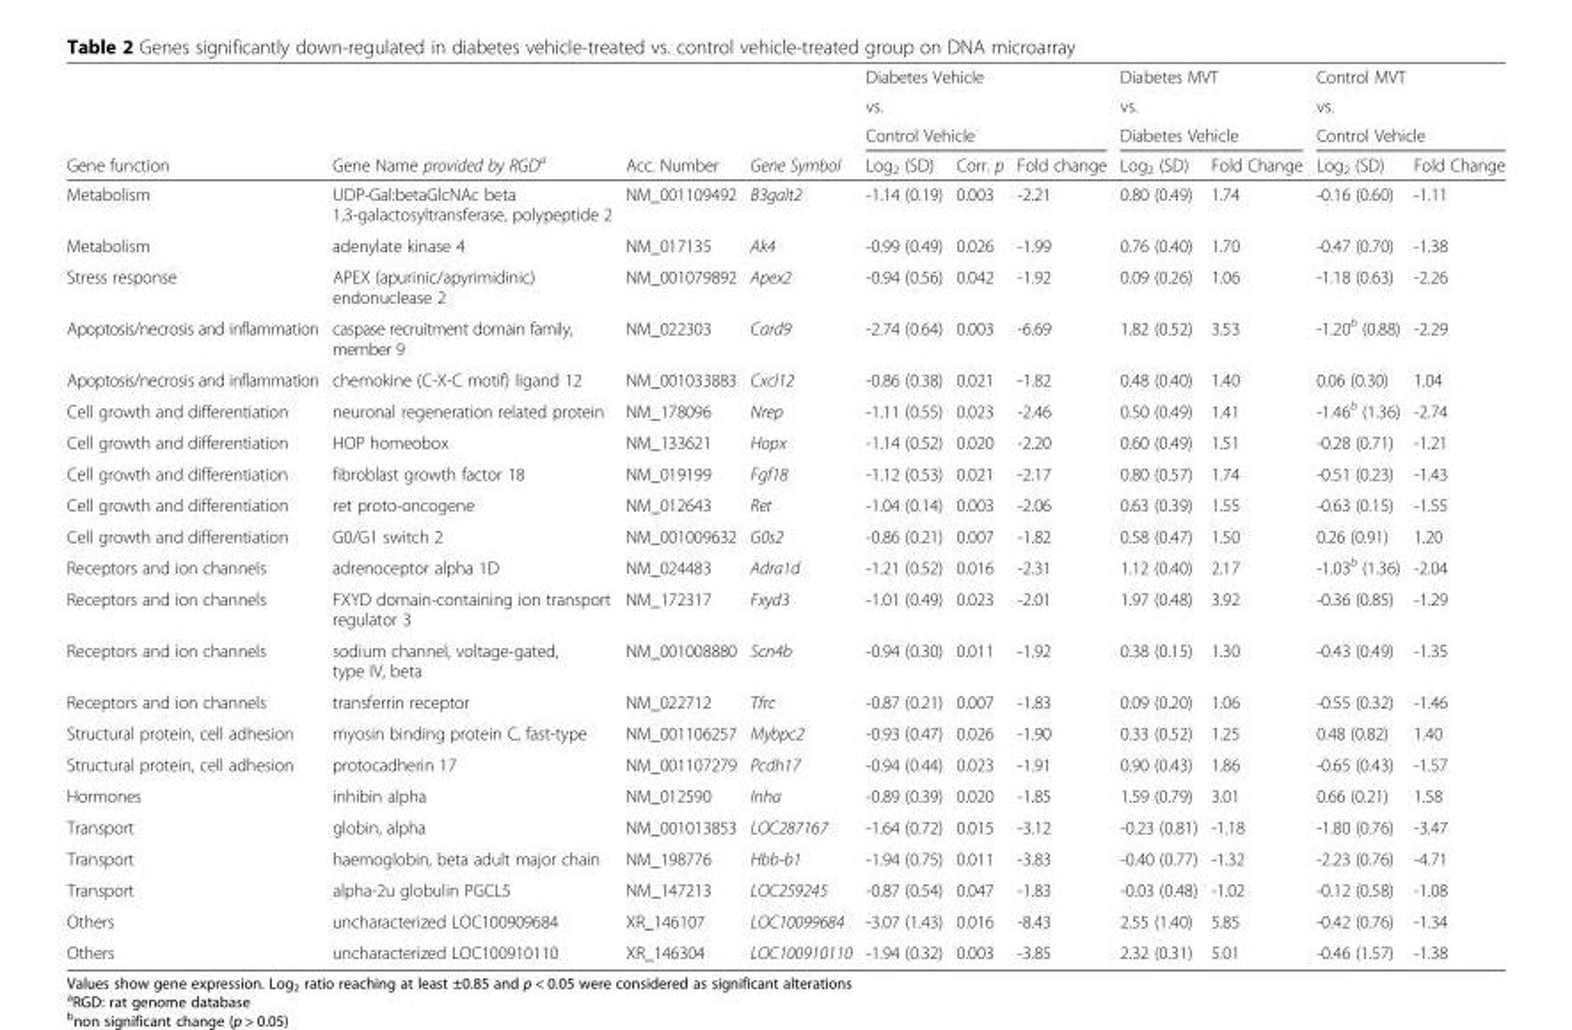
<table><thead><tr><td rowspan="4">Gene function</td><td rowspan="4">Gene Name provided by RGD<sup>a</sup></td><td rowspan="4">Acc. Number</td><td rowspan="4">Gene Symbol</td><td rowspan="3" colspan="3">Diabetes Vehicle vs. Control Vehicle</td><td rowspan="3" colspan="2">Diabetes MVT vs. Diabetes Vehicle</td><td rowspan="3" colspan="2">Control MVT vs. Control Vehicle</td></tr><tr></tr><tr></tr><tr><td>Log<sub>2</sub> (SD)</td><td>Corr. p</td><td>Fold change</td><td>Log<sub>2</sub> (SD)</td><td>Fold Change</td><td>Log<sub>2</sub> (SD)</td><td>Fold Change</td></tr></thead><tbody><tr><td>Metabolism</td><td>UDP-Gal:betaGlcNAc beta 1,3-galactosyltransferase, polypeptide 2</td><td>NM_001109492</td><td>B3galt2</td><td>-1.14 (0.19)</td><td>0.003</td><td>-2.21</td><td>0.80 (0.49)</td><td>1.74</td><td>-0.16 (0.60)</td><td>-1.11</td></tr><tr><td>Metabolism</td><td>adenylate kinase 4</td><td>NM_017135</td><td>Ak4</td><td>-0.99 (0.49)</td><td>0.026</td><td>-1.99</td><td>0.76 (0.40)</td><td>1.70</td><td>-0.47 (0.70)</td><td>-1.38</td></tr><tr><td>Stress response</td><td>APEX (apurinic/apyrimidinic) endonuclease 2</td><td>NM_001079892</td><td>Apex2</td><td>-0.94 (0.56)</td><td>0.042</td><td>-1.92</td><td>0.09 (0.26)</td><td>1.06</td><td>-1.18 (0.63)</td><td>-2.26</td></tr><tr><td>Apoptosis/necrosis and inflammation</td><td>caspase recruitment domain family, member 9</td><td>NM_022303</td><td>Card9</td><td>-2.74 (0.64)</td><td>0.003</td><td>-6.69</td><td>1.82 (0.52)</td><td>3.53</td><td>-1.20<sup>b</sup> (0.88)</td><td>-2.29</td></tr><tr><td>Apoptosis/necrosis and inflammation</td><td>chemokine (C-X-C motif) ligand 12</td><td>NM_001033883</td><td>Cxcl12</td><td>-0.86 (0.38)</td><td>0.021</td><td>-1.82</td><td>0.48 (0.40)</td><td>1.40</td><td>0.06 (0.30)</td><td>1.04</td></tr><tr><td>Cell growth and differentiation</td><td>neuronal regeneration related protein</td><td>NM_178096</td><td>Nrep</td><td>-1.11 (0.55)</td><td>0.023</td><td>-2.46</td><td>0.50 (0.49)</td><td>1.41</td><td>-1.46<sup>b</sup> (1.36)</td><td>-2.74</td></tr><tr><td>Cell growth and differentiation</td><td>HOP homeobox</td><td>NM_133621</td><td>Hopx</td><td>-1.14 (0.52)</td><td>0.020</td><td>-2.20</td><td>0.60 (0.49)</td><td>1.51</td><td>-0.28 (0.71)</td><td>-1.21</td></tr><tr><td>Cell growth and differentiation</td><td>fibroblast growth factor 18</td><td>NM_019199</td><td>Fgf18</td><td>-1.12 (0.53)</td><td>0.021</td><td>-2.17</td><td>0.80 (0.57)</td><td>1.74</td><td>-0.51 (0.23)</td><td>-1.43</td></tr><tr><td>Cell growth and differentiation</td><td>ret proto-oncogene</td><td>NM_012643</td><td>Ret</td><td>-1.04 (0.14)</td><td>0.003</td><td>-2.06</td><td>0.63 (0.39)</td><td>1.55</td><td>-0.63 (0.15)</td><td>-1.55</td></tr><tr><td>Cell growth and differentiation</td><td>G0/G1 switch 2</td><td>NM_001009632</td><td>G0s2</td><td>-0.86 (0.21)</td><td>0.007</td><td>-1.82</td><td>0.58 (0.47)</td><td>1.50</td><td>0.26 (0.91)</td><td>1.20</td></tr><tr><td>Receptors and ion channels</td><td>adrenoceptor alpha 1D</td><td>NM_024483</td><td>Adra1d</td><td>-1.21 (0.52)</td><td>0.016</td><td>-2.31</td><td>1.12 (0.40)</td><td>2.17</td><td>-1.03<sup>b</sup> (1.36)</td><td>-2.04</td></tr><tr><td>Receptors and ion channels</td><td>FXYD domain-containing ion transport regulator 3</td><td>NM_172317</td><td>Fxyd3</td><td>-1.01 (0.49)</td><td>0.023</td><td>-2.01</td><td>1.97 (0.48)</td><td>3.92</td><td>-0.36 (0.85)</td><td>-1.29</td></tr><tr><td>Receptors and ion channels</td><td>sodium channel, voltage-gated, type IV, beta</td><td>NM_001008880</td><td>Scn4b</td><td>-0.94 (0.30)</td><td>0.011</td><td>-1.92</td><td>0.38 (0.15)</td><td>1.30</td><td>-0.43 (0.49)</td><td>-1.35</td></tr><tr><td>Receptors and ion channels</td><td>transferrin receptor</td><td>NM_022712</td><td>Tfrc</td><td>-0.87 (0.21)</td><td>0.007</td><td>-1.83</td><td>0.09 (0.20)</td><td>1.06</td><td>-0.55 (0.32)</td><td>-1.46</td></tr><tr><td>Structural protein, cell adhesion</td><td>myosin binding protein C, fast-type</td><td>NM_001106257</td><td>Mybpc2</td><td>-0.93 (0.47)</td><td>0.026</td><td>-1.90</td><td>0.33 (0.52)</td><td>1.25</td><td>0.48 (0.82)</td><td>1.40</td></tr><tr><td>Structural protein, cell adhesion</td><td>protocadherin 17</td><td>NM_001107279</td><td>Pcdh17</td><td>-0.94 (0.44)</td><td>0.023</td><td>-1.91</td><td>0.90 (0.43)</td><td>1.86</td><td>-0.65 (0.43)</td><td>-1.57</td></tr><tr><td>Hormones</td><td>inhibin alpha</td><td>NM_012590</td><td>Inha</td><td>-0.89 (0.39)</td><td>0.020</td><td>-1.85</td><td>1.59 (0.79)</td><td>3.01</td><td>0.66 (0.21)</td><td>1.58</td></tr><tr><td>Transport</td><td>globin, alpha</td><td>NM_001013853</td><td>LOC287167</td><td>-1.64 (0.72)</td><td>0.015</td><td>-3.12</td><td>-0.23 (0.81)</td><td>-1.18</td><td>-1.80 (0.76)</td><td>-3.47</td></tr><tr><td>Transport</td><td>haemoglobin, beta adult major chain</td><td>NM_198776</td><td>Hbb-b1</td><td>-1.94 (0.75)</td><td>0.011</td><td>-3.83</td><td>-0.40 (0.77)</td><td>-1.32</td><td>-2.23 (0.76)</td><td>-4.71</td></tr><tr><td>Transport</td><td>alpha-2u globulin PGCL5</td><td>NM_147213</td><td>LOC259245</td><td>-0.87 (0.54)</td><td>0.047</td><td>-1.83</td><td>-0.03 (0.48)</td><td>-1.02</td><td>-0.12 (0.58)</td><td>-1.08</td></tr><tr><td>Others</td><td>uncharacterized LOC100909684</td><td>XR_146107</td><td>LOC10099684</td><td>-3.07 (1.43)</td><td>0.016</td><td>-8.43</td><td>2.55 (1.40)</td><td>5.85</td><td>-0.42 (0.76)</td><td>-1.34</td></tr><tr><td>Others</td><td>uncharacterized LOC100910110</td><td>XR_146304</td><td>LOC100910110</td><td>-1.94 (0.32)</td><td>0.003</td><td>-3.85</td><td>2.32 (0.31)</td><td>5.01</td><td>-0.46 (1.57)</td><td>-1.38</td></tr></tbody></table>